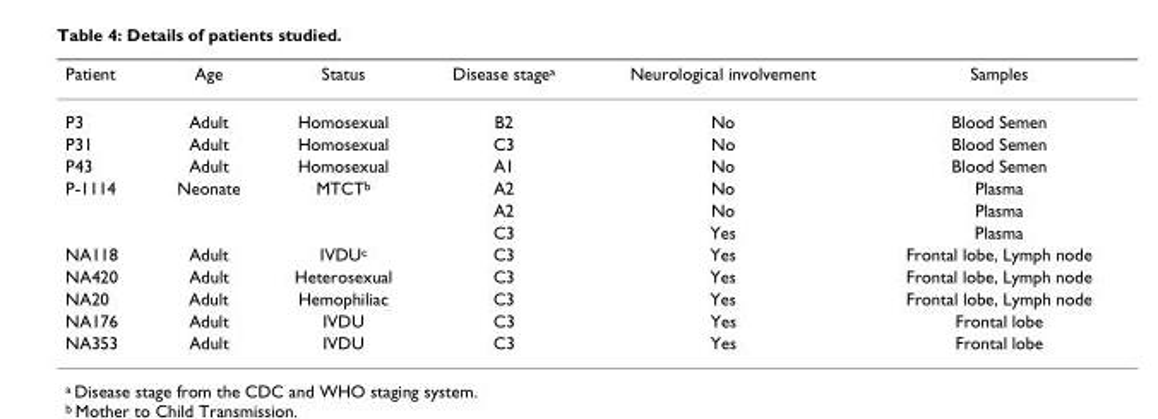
<table><thead><tr><td>Patient</td><td>Age</td><td>Status</td><td>Disease stage<sup>a</sup></td><td>Neurological involvement</td><td>Samples</td></tr></thead><tbody><tr><td>P3</td><td>Adult</td><td>Homosexual</td><td>B2</td><td>No</td><td>Blood Semen</td></tr><tr><td>P31</td><td>Adult</td><td>Homosexual</td><td>C3</td><td>No</td><td>Blood Semen</td></tr><tr><td>P43</td><td>Adult</td><td>Homosexual</td><td>A1</td><td>No</td><td>Blood Semen</td></tr><tr><td rowspan="3">P-1114</td><td>Neonate</td><td>MTCT<sup>b</sup></td><td>A2</td><td>No</td><td>Plasma</td></tr><tr><td></td><td></td><td>A2</td><td>No</td><td>Plasma</td></tr><tr><td></td><td></td><td>C3</td><td>Yes</td><td>Plasma</td></tr><tr><td>NA118</td><td>Adult</td><td>IVDU<sup>c</sup></td><td>C3</td><td>Yes</td><td>Frontal lobe, Lymph node</td></tr><tr><td>NA420</td><td>Adult</td><td>Heterosexual</td><td>C3</td><td>Yes</td><td>Frontal lobe, Lymph node</td></tr><tr><td>NA20</td><td>Adult</td><td>Hemophiliac</td><td>C3</td><td>Yes</td><td>Frontal lobe, Lymph node</td></tr><tr><td>NA176</td><td>Adult</td><td>IVDU</td><td>C3</td><td>Yes</td><td>Frontal lobe</td></tr><tr><td>NA353</td><td>Adult</td><td>IVDU</td><td>C3</td><td>Yes</td><td>Frontal lobe</td></tr></tbody></table>